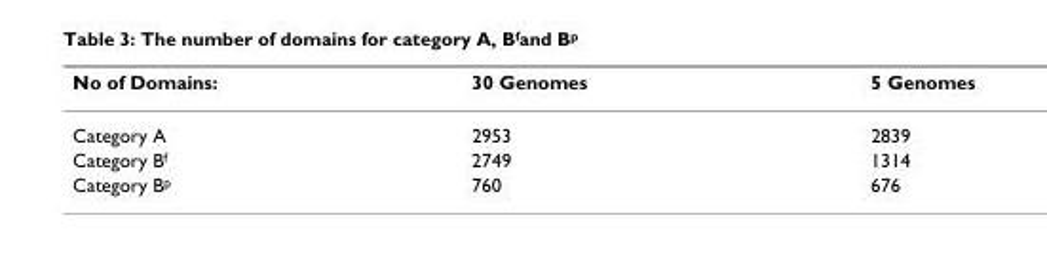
<table><thead><tr><td>No of Domains:</td><td>30 Genomes</td><td>5 Genomes</td></tr></thead><tbody><tr><td>Category A</td><td>2953</td><td>2839</td></tr><tr><td>Category Bf</td><td>2749</td><td>1314</td></tr><tr><td>Category Bp</td><td>760</td><td>676</td></tr></tbody></table>